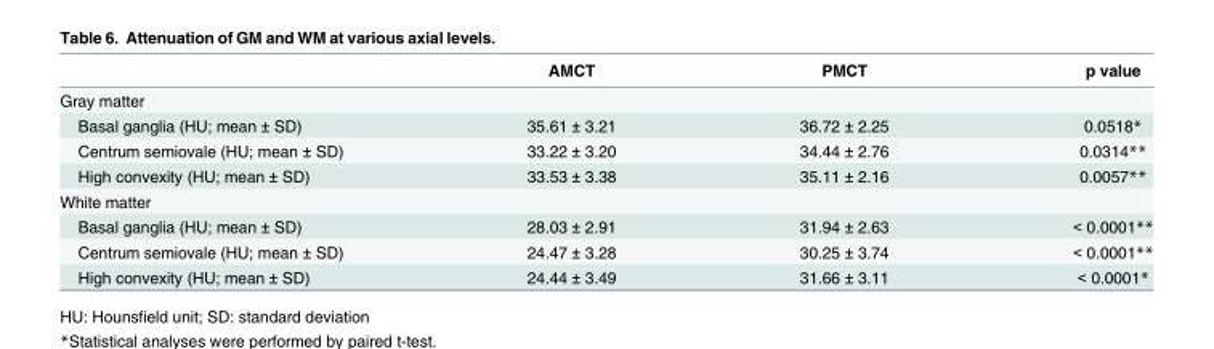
<table><thead><tr><td></td><td>AMCT</td><td>PMCT</td><td>p value</td></tr></thead><tbody><tr><td colspan="4">Gray matter</td></tr><tr><td>Basal ganglia (HU; mean ± SD)</td><td>35.61 ± 3.21</td><td>36.72 ± 2.25</td><td>0.0518*</td></tr><tr><td>Centrum semiovale (HU; mean ± SD)</td><td>33.22 ± 3.20</td><td>34.44 ± 2.76</td><td>0.0314**</td></tr><tr><td>High convexity (HU; mean ± SD)</td><td>33.53 ± 3.38</td><td>35.11 ± 2.16</td><td>0.0057**</td></tr><tr><td colspan="4">White matter</td></tr><tr><td>Basal ganglia (HU; mean ± SD)</td><td>28.03 ± 2.91</td><td>31.94 ± 2.63</td><td>&lt; 0.0001**</td></tr><tr><td>Centrum semiovale (HU; mean ± SD)</td><td>24.47 ± 3.28</td><td>30.25 ± 3.74</td><td>&lt; 0.0001**</td></tr><tr><td>High convexity (HU; mean ± SD)</td><td>24.44 ± 3.49</td><td>31.66 ± 3.11</td><td>&lt; 0.0001*</td></tr></tbody></table>